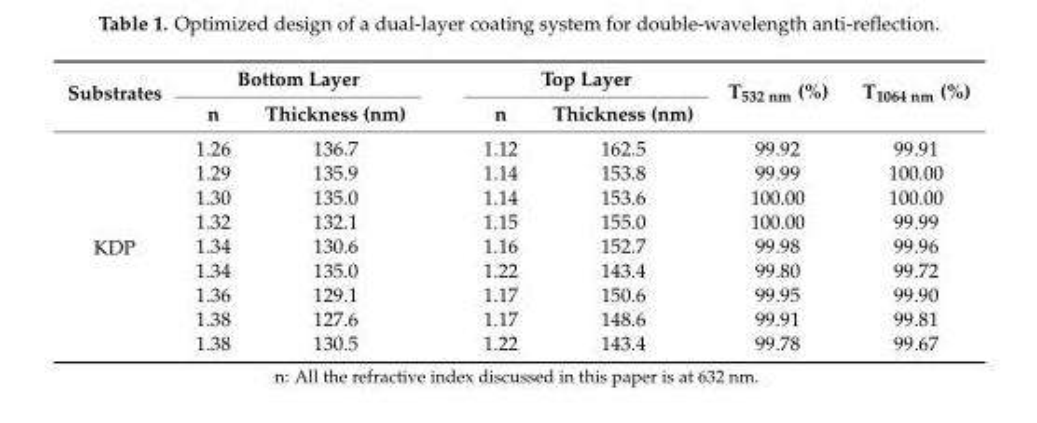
<table><thead><tr><td rowspan="2">Substrates</td><td colspan="2">Bottom Layer</td><td colspan="2">Top Layer</td><td rowspan="2">T532 nm (%)</td><td rowspan="2">T1064 nm (%)</td></tr><tr><td>n</td><td>Thickness (nm)</td><td>n</td><td>Thickness (nm)</td></tr></thead><tbody><tr><td rowspan="9">KDP</td><td>1.26</td><td>136.7</td><td>1.12</td><td>162.5</td><td>99.92</td><td>99.91</td></tr><tr><td>1.29</td><td>135.9</td><td>1.14</td><td>153.8</td><td>99.99</td><td>100.00</td></tr><tr><td>1.30</td><td>135.0</td><td>1.14</td><td>153.6</td><td>100.00</td><td>100.00</td></tr><tr><td>1.32</td><td>132.1</td><td>1.15</td><td>155.0</td><td>100.00</td><td>99.99</td></tr><tr><td>1.34</td><td>130.6</td><td>1.16</td><td>152.7</td><td>99.98</td><td>99.96</td></tr><tr><td>1.34</td><td>135.0</td><td>1.22</td><td>143.4</td><td>99.80</td><td>99.72</td></tr><tr><td>1.36</td><td>129.1</td><td>1.17</td><td>150.6</td><td>99.95</td><td>99.90</td></tr><tr><td>1.38</td><td>127.6</td><td>1.17</td><td>148.6</td><td>99.91</td><td>99.81</td></tr><tr><td>1.38</td><td>130.5</td><td>1.22</td><td>143.4</td><td>99.78</td><td>99.67</td></tr></tbody></table>